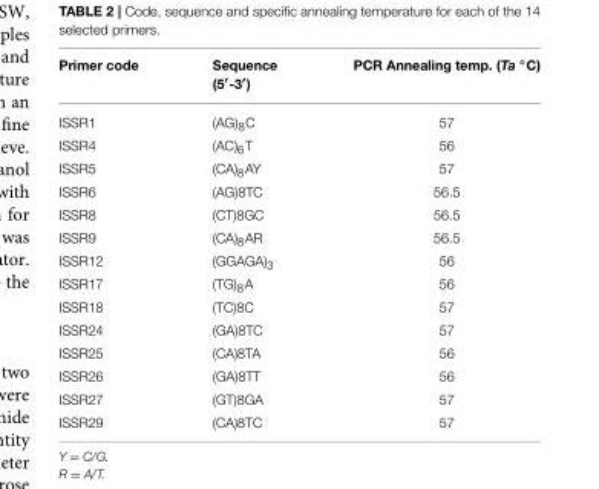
<table><thead><tr><td>Primer code</td><td>Sequence (5′-3′)</td><td>PCR Annealing temp. (Ta ◦C)</td></tr></thead><tbody><tr><td>ISSR1</td><td>(AG)<sub>8</sub>C</td><td>57</td></tr><tr><td>ISSR4</td><td>(AC)<sub>6</sub>T</td><td>56</td></tr><tr><td>ISSR5</td><td>(CA)<sub>8</sub>AY</td><td>57</td></tr><tr><td>ISSR6</td><td>(AG)8TC</td><td>56.5</td></tr><tr><td>ISSR8</td><td>(CT)8GC</td><td>56.5</td></tr><tr><td>ISSR9</td><td>(CA)<sub>8</sub>AR</td><td>56.5</td></tr><tr><td>ISSR12</td><td>(GGAGA)<sub>3</sub></td><td>56</td></tr><tr><td>ISSR17</td><td>(TG)<sub>8</sub>A</td><td>56</td></tr><tr><td>ISSR18</td><td>(TC)8C</td><td>57</td></tr><tr><td>ISSR24</td><td>(GA)8TC</td><td>57</td></tr><tr><td>ISSR25</td><td>(CA)8TA</td><td>56</td></tr><tr><td>ISSR26</td><td>(GA)8TT</td><td>56</td></tr><tr><td>ISSR27</td><td>(GT)8GA</td><td>57</td></tr><tr><td>ISSR29</td><td>(CA)8TC</td><td>57</td></tr></tbody></table>